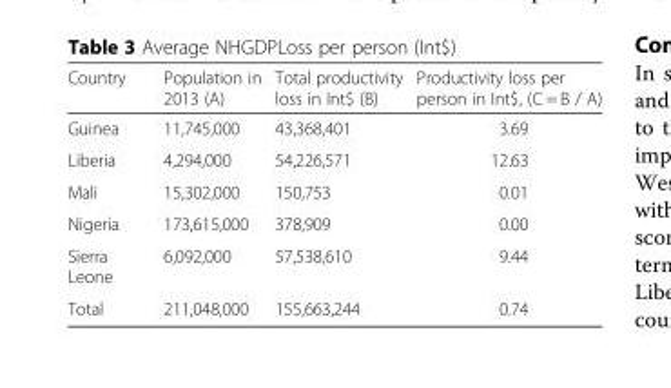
<table><thead><tr><td>Country</td><td>Population in 2013 (A)</td><td>Total productivity loss in Int$ (B)</td><td>Productivity loss per person in Int$, (C = B / A)</td></tr></thead><tbody><tr><td>Guinea</td><td>11,745,000</td><td>43,368,401</td><td>3.69</td></tr><tr><td>Liberia</td><td>4,294,000</td><td>54,226,571</td><td>12.63</td></tr><tr><td>Mali</td><td>15,302,000</td><td>150,753</td><td>0.01</td></tr><tr><td>Nigeria</td><td>173,615,000</td><td>378,909</td><td>0.00</td></tr><tr><td>Sierra Leone</td><td>6,092,000</td><td>57,538,610</td><td>9.44</td></tr><tr><td>Total</td><td>211,048,000</td><td>155,663,244</td><td>0.74</td></tr></tbody></table>